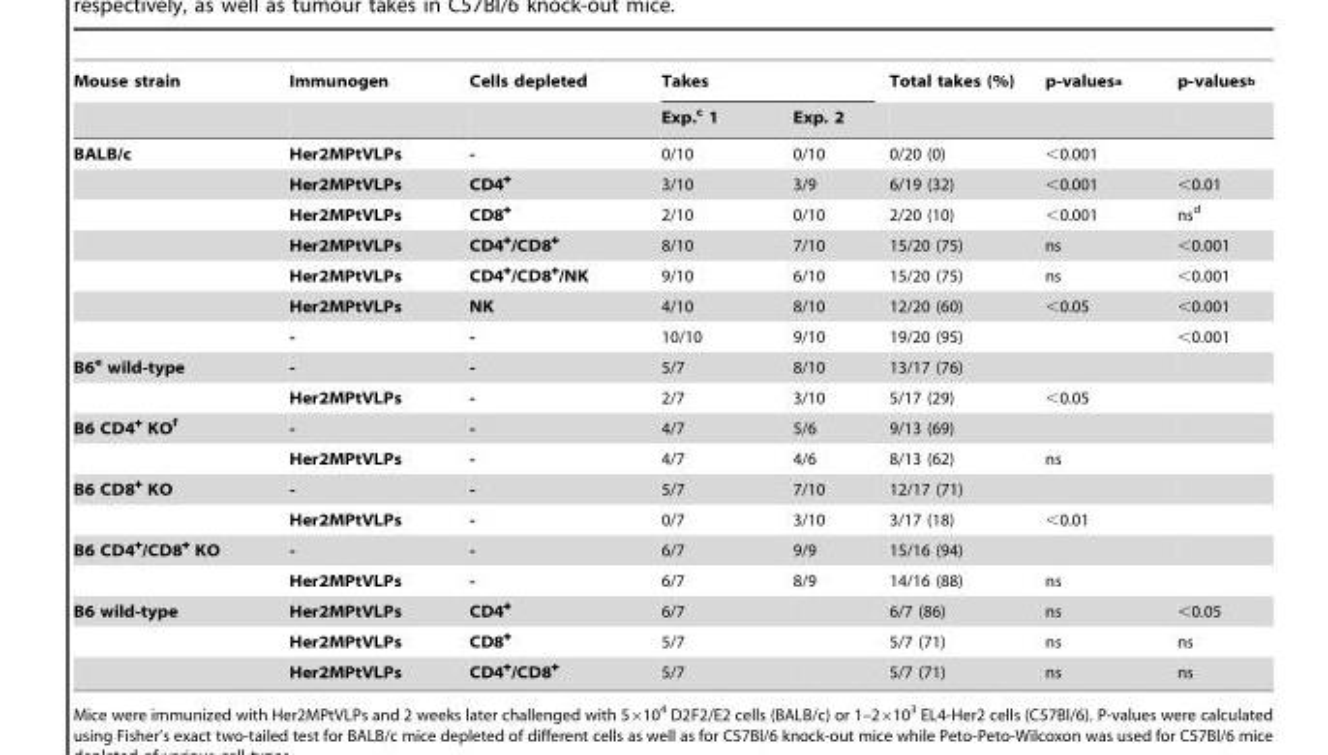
<table><thead><tr><td rowspan="2">Mouse strain</td><td rowspan="2">Immunogen</td><td rowspan="2">Cells depleted</td><td colspan="2">Takes</td><td rowspan="2">Total takes (%)</td><td rowspan="2">p-values<sup>a</sup></td><td rowspan="2">p-values<sup>b</sup></td></tr><tr><td>Exp.<sup>c</sup> 1</td><td>Exp. 2</td></tr></thead><tbody><tr><td rowspan="7">BALB/c</td><td>Her2MPtVLPs</td><td>-</td><td>0/10</td><td>0/10</td><td>0/20 (0)</td><td>&lt;0.001</td><td></td></tr><tr><td>Her2MPtVLPs</td><td>CD4<sup>+</sup></td><td>3/10</td><td>3/9</td><td>6/19 (32)</td><td>&lt;0.001</td><td>&lt;0.01</td></tr><tr><td>Her2MPtVLPs</td><td>CD8<sup>+</sup></td><td>2/10</td><td>0/10</td><td>2/20 (10)</td><td>&lt;0.001</td><td>ns<sup>d</sup></td></tr><tr><td>Her2MPtVLPs</td><td>CD4<sup>+</sup>/CD8<sup>+</sup></td><td>8/10</td><td>7/10</td><td>15/20 (75)</td><td>ns</td><td>&lt;0.001</td></tr><tr><td>Her2MPtVLPs</td><td>CD4<sup>+</sup>/CD8<sup>+</sup>/NK</td><td>9/10</td><td>6/10</td><td>15/20 (75)</td><td>ns</td><td>&lt;0.001</td></tr><tr><td>Her2MPtVLPs</td><td>NK</td><td>4/10</td><td>8/10</td><td>12/20 (60)</td><td>&lt;0.05</td><td>&lt;0.001</td></tr><tr><td>-</td><td>-</td><td>10/10</td><td>9/10</td><td>19/20 (95)</td><td></td><td>&lt;0.001</td></tr><tr><td rowspan="2">B6e wild-type</td><td>-</td><td>-</td><td>5/7</td><td>8/10</td><td>13/17 (76)</td><td></td><td></td></tr><tr><td>Her2MPtVLPs</td><td>-</td><td>2/7</td><td>3/10</td><td>5/17 (29)</td><td>&lt;0.05</td><td></td></tr><tr><td rowspan="2">B6 CD4<sup>+</sup> KOf</td><td>-</td><td>-</td><td>4/7</td><td>5/6</td><td>9/13 (69)</td><td></td><td></td></tr><tr><td>Her2MPtVLPs</td><td>-</td><td>4/7</td><td>4/6</td><td>8/13 (62)</td><td>ns</td><td></td></tr><tr><td rowspan="2">B6 CD8<sup>+</sup> KO</td><td>-</td><td>-</td><td>5/7</td><td>7/10</td><td>12/17 (71)</td><td></td><td></td></tr><tr><td>Her2MPtVLPs</td><td>-</td><td>0/7</td><td>3/10</td><td>3/17 (18)</td><td>&lt;0.01</td><td></td></tr><tr><td rowspan="2">B6 CD4<sup>+</sup>/CD8<sup>+</sup> KO</td><td>-</td><td>-</td><td>6/7</td><td>9/9</td><td>15/16 (94)</td><td></td><td></td></tr><tr><td>Her2MPtVLPs</td><td>-</td><td>6/7</td><td>8/9</td><td>14/16 (88)</td><td>ns</td><td></td></tr><tr><td rowspan="3">B6 wild-type</td><td>Her2MPtVLPs</td><td>CD4<sup>+</sup></td><td>6/7</td><td></td><td>6/7 (86)</td><td>ns</td><td>&lt;0.05</td></tr><tr><td>Her2MPtVLPs</td><td>CD8<sup>+</sup></td><td>5/7</td><td></td><td>5/7 (71)</td><td>ns</td><td>ns</td></tr><tr><td>Her2MPtVLPs</td><td>CD4<sup>+</sup>/CD8<sup>+</sup></td><td>5/7</td><td></td><td>5/7 (71)</td><td>ns</td><td>ns</td></tr></tbody></table>